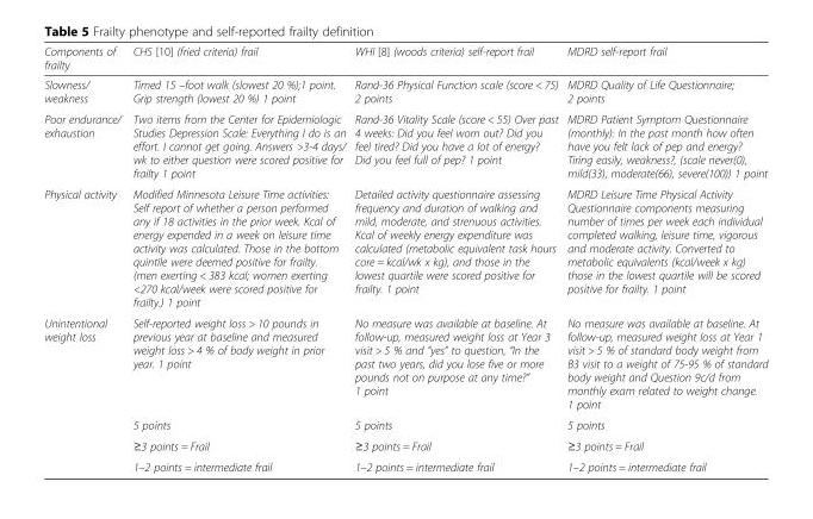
<table><thead><tr><td>Components of frailty</td><td>CHS [10] (fried criteria) frail</td><td>WHI [8] (woods criteria) self-report frail</td><td>MDRD self-report frail</td></tr></thead><tbody><tr><td>Slowness/ weakness</td><td>Timed 15 –foot walk (slowest 20 %);1 point. Grip strength (lowest 20 %) 1 point</td><td>Rand-36 Physical Function scale (score &lt; 75) 2 points</td><td>MDRD Quality of Life Questionnaire; 2 points</td></tr><tr><td>Poor endurance/ exhaustion</td><td>Two items from the Center for Epidemiologic Studies Depression Scale: Everything I do is an effort. I cannot get going. Answers &gt;3-4 days/ wk to either question were scored positive for frailty 1 point</td><td>Rand-36 Vitality Scale (score &lt; 55) Over past 4 weeks: Did you feel worn out? Did you feel tired? Did you have a lot of energy? Did you feel full of pep? 1 point</td><td>MDRD Patient Symptom Questionnaire (monthly): In the past month how often have you felt lack of pep and energy? Tiring easily, weakness?, (scale never(0), mild(33), moderate(66), severe(100)) 1 point</td></tr><tr><td>Physical activity</td><td>Modified Minnesota Leisure Time activities: Self report of whether a person performed any if 18 activities in the prior week. Kcal of energy expended in a week on leisure time activity was calculated. Those in the bottom quintile were deemed positive for frailty. (men exerting &lt; 383 kcal; women exerting &lt;270 kcal/week were scored positive for frailty.) 1 point</td><td>Detailed activity questionnaire assessing frequency and duration of walking and mild, moderate, and strenuous activities. Kcal of weekly energy expenditure was calculated (metabolic equivalent task hours core = kcal/wk x kg), and those in the lowest quartile were scored positive for frailty. 1 point</td><td>MDRD Leisure Time Physical Activity Questionnaire components measuring number of times per week each individual completed walking, leisure time, vigorous and moderate activity. Converted to metabolic equivalents (kcal/week x kg) those in the lowest quartile will be scored positive for frailty. 1 point</td></tr><tr><td rowspan="4">Unintentional weight loss</td><td>Self-reported weight loss &gt; 10 pounds in previous year at baseline and measured weight loss &gt; 4 % of body weight in prior year. 1 point</td><td>No measure was available at baseline. At follow-up, measured weight loss at Year 3 visit &gt; 5 % and “yes” to question, “In the past two years, did you lose five or more pounds not on purpose at any time?” 1 point</td><td>No measure was available at baseline. At follow-up, measured weight loss at Year 1 visit &gt; 5 % of standard body weight from B3 visit to a weight of 75-95 % of standard body weight and Question 9c/d from monthly exam related to weight change. 1 point</td></tr><tr><td>5 points</td><td>5 points</td><td>5 points</td></tr><tr><td>≥3 points = Frail</td><td>≥3 points = Frail</td><td>≥3 points = Frail</td></tr><tr><td>1–2 points = intermediate frail</td><td>1–2 points = intermediate frail</td><td>1–2 points = intermediate frail</td></tr></tbody></table>